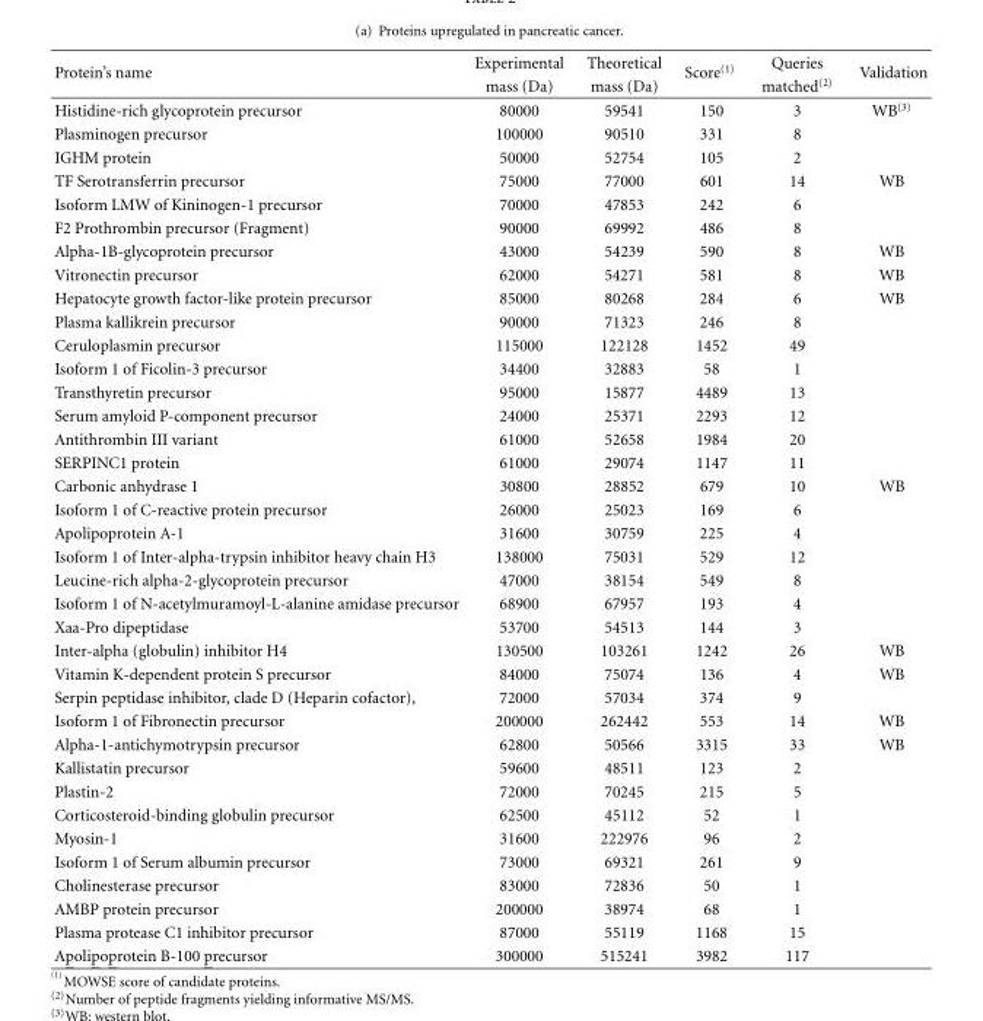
<table><thead><tr><td rowspan="2">Protein’s name</td><td rowspan="2">Experimental mass (Da)</td><td rowspan="2">Theoretical mass (Da)</td><td rowspan="2">Score<sup>(1)</sup></td><td rowspan="2">Queries matched<sup>(2)</sup></td><td rowspan="2">Validation</td></tr><tr></tr></thead><tbody><tr><td>Histidine-rich glycoprotein precursor</td><td>80000</td><td>59541</td><td>150</td><td>3</td><td>WB<sup>(3)</sup></td></tr><tr><td>Plasminogen precursor</td><td>100000</td><td>90510</td><td>331</td><td>8</td><td></td></tr><tr><td>IGHM protein</td><td>50000</td><td>52754</td><td>105</td><td>2</td><td></td></tr><tr><td>TF Serotransferrin precursor</td><td>75000</td><td>77000</td><td>601</td><td>14</td><td>WB</td></tr><tr><td>Isoform LMW of Kininogen-1 precursor</td><td>70000</td><td>47853</td><td>242</td><td>6</td><td></td></tr><tr><td>F2 Prothrombin precursor (Fragment)</td><td>90000</td><td>69992</td><td>486</td><td>8</td><td></td></tr><tr><td>Alpha-1B-glycoprotein precursor</td><td>43000</td><td>54239</td><td>590</td><td>8</td><td>WB</td></tr><tr><td>Vitronectin precursor</td><td>62000</td><td>54271</td><td>581</td><td>8</td><td>WB</td></tr><tr><td>Hepatocyte growth factor-like protein precursor</td><td>85000</td><td>80268</td><td>284</td><td>6</td><td>WB</td></tr><tr><td>Plasma kallikrein precursor</td><td>90000</td><td>71323</td><td>246</td><td>8</td><td></td></tr><tr><td>Ceruloplasmin precursor</td><td>115000</td><td>122128</td><td>1452</td><td>49</td><td></td></tr><tr><td>Isoform 1 of Ficolin-3 precursor</td><td>34400</td><td>32883</td><td>58</td><td>1</td><td></td></tr><tr><td>Transthyretin precursor</td><td>95000</td><td>15877</td><td>4489</td><td>13</td><td></td></tr><tr><td>Serum amyloid P-component precursor</td><td>24000</td><td>25371</td><td>2293</td><td>12</td><td></td></tr><tr><td>Antithrombin III variant</td><td>61000</td><td>52658</td><td>1984</td><td>20</td><td></td></tr><tr><td>SERPINC1 protein</td><td>61000</td><td>29074</td><td>1147</td><td>11</td><td></td></tr><tr><td>Carbonic anhydrase 1</td><td>30800</td><td>28852</td><td>679</td><td>10</td><td>WB</td></tr><tr><td>Isoform 1 of C-reactive protein precursor</td><td>26000</td><td>25023</td><td>169</td><td>6</td><td></td></tr><tr><td>Apolipoprotein A-1</td><td>31600</td><td>30759</td><td>225</td><td>4</td><td></td></tr><tr><td>Isoform 1 of Inter-alpha-trypsin inhibitor heavy chain H3</td><td>138000</td><td>75031</td><td>529</td><td>12</td><td></td></tr><tr><td>Leucine-rich alpha-2-glycoprotein precursor</td><td>47000</td><td>38154</td><td>549</td><td>8</td><td></td></tr><tr><td>Isoform 1 of N-acetylmuramoyl-L-alanine amidase precursor</td><td>68900</td><td>67957</td><td>193</td><td>4</td><td></td></tr><tr><td>Xaa-Pro dipeptidase</td><td>53700</td><td>54513</td><td>144</td><td>3</td><td></td></tr><tr><td>Inter-alpha (globulin) inhibitor H4</td><td>130500</td><td>103261</td><td>1242</td><td>26</td><td>WB</td></tr><tr><td>Vitamin K-dependent protein S precursor</td><td>84000</td><td>75074</td><td>136</td><td>4</td><td>WB</td></tr><tr><td>Serpin peptidase inhibitor, clade D (Heparin cofactor),</td><td>72000</td><td>57034</td><td>374</td><td>9</td><td></td></tr><tr><td>Isoform 1 of Fibronectin precursor</td><td>200000</td><td>262442</td><td>553</td><td>14</td><td>WB</td></tr><tr><td>Alpha-1-antichymotrypsin precursor</td><td>62800</td><td>50566</td><td>3315</td><td>33</td><td>WB</td></tr><tr><td>Kallistatin precursor</td><td>59600</td><td>48511</td><td>123</td><td>2</td><td></td></tr><tr><td>Plastin-2</td><td>72000</td><td>70245</td><td>215</td><td>5</td><td></td></tr><tr><td>Corticosteroid-binding globulin precursor</td><td>62500</td><td>45112</td><td>52</td><td>1</td><td></td></tr><tr><td>Myosin-1</td><td>31600</td><td>222976</td><td>96</td><td>2</td><td></td></tr><tr><td>Isoform 1 of Serum albumin precursor</td><td>73000</td><td>69321</td><td>261</td><td>9</td><td></td></tr><tr><td>Cholinesterase precursor</td><td>83000</td><td>72836</td><td>50</td><td>1</td><td></td></tr><tr><td>AMBP protein precursor</td><td>200000</td><td>38974</td><td>68</td><td>1</td><td></td></tr><tr><td>Plasma protease C1 inhibitor precursor</td><td>87000</td><td>55119</td><td>1168</td><td>15</td><td></td></tr><tr><td>Apolipoprotein B-100 precursor</td><td>300000</td><td>515241</td><td>3982</td><td>117</td><td></td></tr></tbody></table>